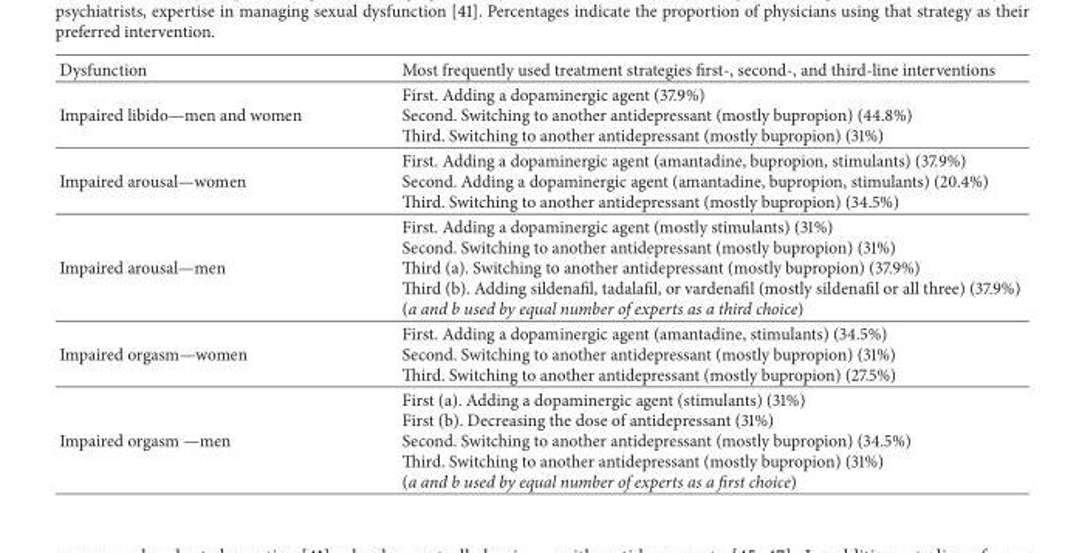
<table><thead><tr><td>Dysfunction</td><td>Most frequently used treatment strategies first-, second-, and third-line interventions</td></tr></thead><tbody><tr><td>Impaired libido—men and women</td><td>First. Adding a dopaminergic agent (37.9%) Second. Switching to another antidepressant (mostly bupropion) (44.8%) Third. Switching to another antidepressant (mostly bupropion) (31%)</td></tr><tr><td>Impaired arousal—women</td><td>First. Adding a dopaminergic agent (amantadine, bupropion, stimulants) (37.9%) Second. Adding a dopaminergic agent (amantadine, bupropion, stimulants) (20.4%) Third. Switching to another antidepressant (mostly bupropion) (34.5%)</td></tr><tr><td>Impaired arousal—men</td><td>First. Adding a dopaminergic agent (mostly stimulants) (31%) Second. Switching to another antidepressant (mostly bupropion) (31%) Third (a). Switching to another antidepressant (mostly bupropion) (37.9%) Third (b). Adding sildenafil, tadalafil, or vardenafil (mostly sildenafil or all three) (37.9%) (a and b used by equal number of experts as a third choice)</td></tr><tr><td>Impaired orgasm—women</td><td>First. Adding a dopaminergic agent (amantadine, stimulants) (34.5%) Second. Switching to another antidepressant (mostly bupropion) (31%) Third. Switching to another antidepressant (mostly bupropion) (27.5%)</td></tr><tr><td>Impaired orgasm —men</td><td>First (a). Adding a dopaminergic agent (stimulants) (31%) First (b). Decreasing the dose of antidepressant (31%) Second. Switching to another antidepressant (mostly bupropion) (34.5%) Third. Switching to another antidepressant (mostly bupropion) (31%) (a and b used by equal number of experts as a first choice)</td></tr></tbody></table>